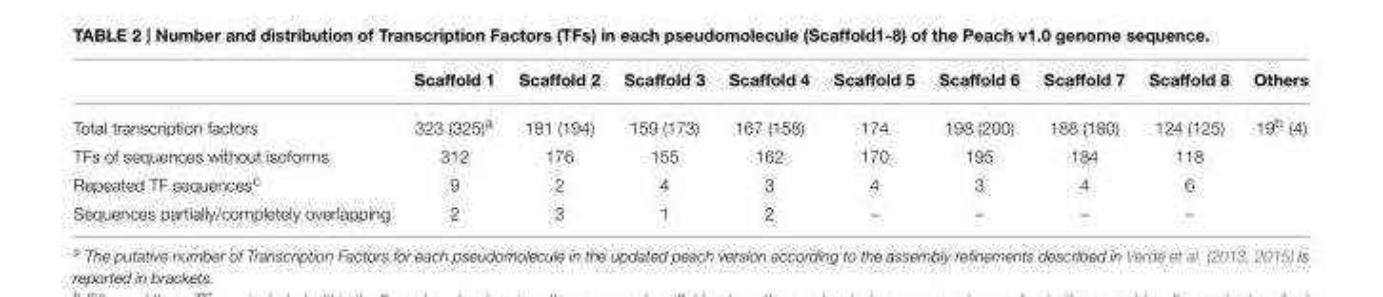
<table><thead><tr><td></td><td>Scaffold 1</td><td>Scaffold 2</td><td>Scaffold 3</td><td>Scaffold 4</td><td>Scaffold 5</td><td>Scaffold 6</td><td>Scaffold 7</td><td>Scaffold 8</td><td>Others</td></tr></thead><tbody><tr><td>Total transcription factors</td><td>323 (325)<sup>a</sup></td><td>181 (194)</td><td>159 (173)</td><td>167 (158)</td><td>174</td><td>198 (200)</td><td>188 (180)</td><td>124 (125)</td><td>19<sup>b</sup> (4)</td></tr><tr><td>TFs of sequences without isoforms</td><td>312</td><td>176</td><td>155</td><td>162</td><td>170</td><td>195</td><td>184</td><td>118</td><td></td></tr><tr><td>Repeated TF sequences<sup>c</sup></td><td>9</td><td>2</td><td>4</td><td>3</td><td>4</td><td>3</td><td>4</td><td>6</td><td></td></tr><tr><td>Sequences partially/completely overlapping</td><td>2</td><td>3</td><td>1</td><td>2</td><td>–</td><td>–</td><td>–</td><td>–</td><td></td></tr></tbody></table>